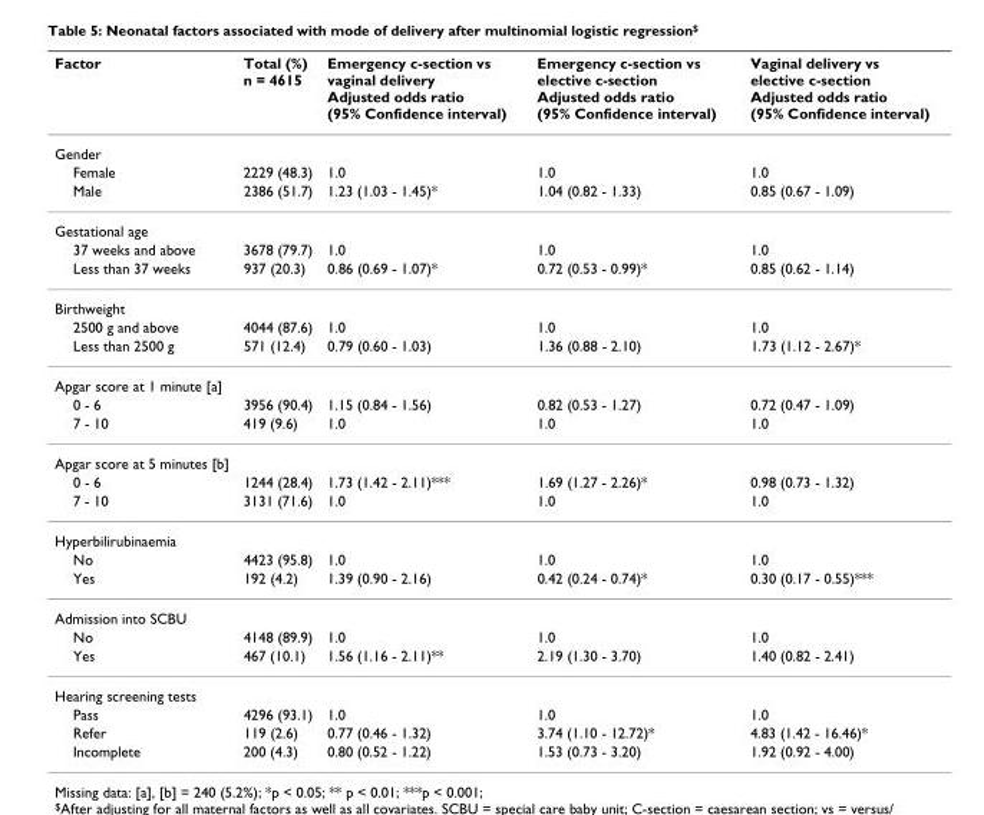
<table><thead><tr><td>Factor</td><td>Total (%) n = 4615</td><td>Emergency c-section vs vaginal delivery Adjusted odds ratio (95% Confidence interval)</td><td>Emergency c-section vs elective c-section Adjusted odds ratio (95% Confidence interval)</td><td>Vaginal delivery vs elective c-section Adjusted odds ratio (95% Confidence interval)</td></tr></thead><tbody><tr><td colspan="5">Gender</td></tr><tr><td>Female</td><td>2229 (48.3)</td><td>1.0</td><td>1.0</td><td>1.0</td></tr><tr><td>Male</td><td>2386 (51.7)</td><td>1.23 (1.03 - 1.45)*</td><td>1.04 (0.82 - 1.33)</td><td>0.85 (0.67 - 1.09)</td></tr><tr><td colspan="5">Gestational age</td></tr><tr><td>37 weeks and above</td><td>3678 (79.7)</td><td>1.0</td><td>1.0</td><td>1.0</td></tr><tr><td>Less than 37 weeks</td><td>937 (20.3)</td><td>0.86 (0.69 - 1.07)*</td><td>0.72 (0.53 - 0.99)*</td><td>0.85 (0.62 - 1.14)</td></tr><tr><td colspan="5">Birthweight</td></tr><tr><td>2500 g and above</td><td>4044 (87.6)</td><td>1.0</td><td>1.0</td><td>1.0</td></tr><tr><td>Less than 2500 g</td><td>571 (12.4)</td><td>0.79 (0.60 - 1.03)</td><td>1.36 (0.88 - 2.10)</td><td>1.73 (1.12 - 2.67)*</td></tr><tr><td colspan="5">Apgar score at 1 minute [a]</td></tr><tr><td>0 - 6</td><td>3956 (90.4)</td><td>1.15 (0.84 - 1.56)</td><td>0.82 (0.53 - 1.27)</td><td>0.72 (0.47 - 1.09)</td></tr><tr><td>7 - 10</td><td>419 (9.6)</td><td>1.0</td><td>1.0</td><td>1.0</td></tr><tr><td colspan="5">Apgar score at 5 minutes [b]</td></tr><tr><td>0 - 6</td><td>1244 (28.4)</td><td>1.73 (1.42 - 2.11)***</td><td>1.69 (1.27 - 2.26)*</td><td>0.98 (0.73 - 1.32)</td></tr><tr><td>7 - 10</td><td>3131 (71.6)</td><td>1.0</td><td>1.0</td><td>1.0</td></tr><tr><td colspan="5">Hyperbilirubinaemia</td></tr><tr><td>No</td><td>4423 (95.8)</td><td>1.0</td><td>1.0</td><td>1.0</td></tr><tr><td>Yes</td><td>192 (4.2)</td><td>1.39 (0.90 - 2.16)</td><td>0.42 (0.24 - 0.74)*</td><td>0.30 (0.17 - 0.55)***</td></tr><tr><td colspan="5">Admission into SCBU</td></tr><tr><td>No</td><td>4148 (89.9)</td><td>1.0</td><td>1.0</td><td>1.0</td></tr><tr><td>Yes</td><td>467 (10.1)</td><td>1.56 (1.16 - 2.11)**</td><td>2.19 (1.30 - 3.70)</td><td>1.40 (0.82 - 2.41)</td></tr><tr><td colspan="5">Hearing screening tests</td></tr><tr><td>Pass</td><td>4296 (93.1)</td><td>1.0</td><td>1.0</td><td>1.0</td></tr><tr><td>Refer</td><td>119 (2.6)</td><td>0.77 (0.46 - 1.32)</td><td>3.74 (1.10 - 12.72)*</td><td>4.83 (1.42 - 16.46)*</td></tr><tr><td>Incomplete</td><td>200 (4.3)</td><td>0.80 (0.52 - 1.22)</td><td>1.53 (0.73 - 3.20)</td><td>1.92 (0.92 - 4.00)</td></tr></tbody></table>